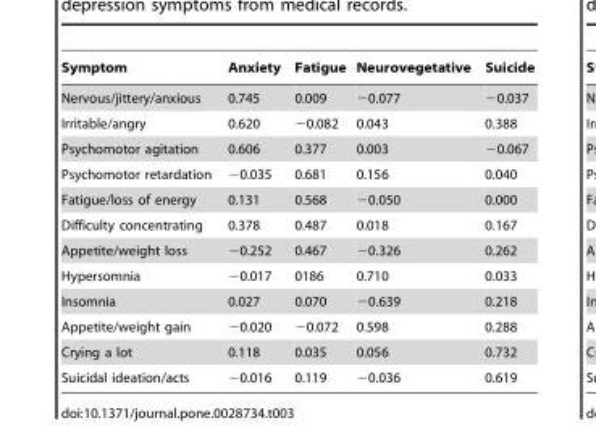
<table><thead><tr><td>Symptom</td><td>Anxiety</td><td>Fatigue</td><td>Neurovegetative</td><td>Suicide</td></tr></thead><tbody><tr><td>Nervous/jittery/anxious</td><td>0.745</td><td>0.009</td><td>−0.077</td><td>−0.037</td></tr><tr><td>Irritable/angry</td><td>0.620</td><td>−0.082</td><td>0.043</td><td>0.388</td></tr><tr><td>Psychomotor agitation</td><td>0.606</td><td>0.377</td><td>0.003</td><td>−0.067</td></tr><tr><td>Psychomotor retardation</td><td>−0.035</td><td>0.681</td><td>0.156</td><td>0.040</td></tr><tr><td>Fatigue/loss of energy</td><td>0.131</td><td>0.568</td><td>−0.050</td><td>0.000</td></tr><tr><td>Difficulty concentrating</td><td>0.378</td><td>0.487</td><td>0.018</td><td>0.167</td></tr><tr><td>Appetite/weight loss</td><td>−0.252</td><td>0.467</td><td>−0.326</td><td>0.262</td></tr><tr><td>Hypersomnia</td><td>−0.017</td><td>0186</td><td>0.710</td><td>0.033</td></tr><tr><td>Insomnia</td><td>0.027</td><td>0.070</td><td>−0.639</td><td>0.218</td></tr><tr><td>Appetite/weight gain</td><td>−0.020</td><td>−0.072</td><td>0.598</td><td>0.288</td></tr><tr><td>Crying a lot</td><td>0.118</td><td>0.035</td><td>0.056</td><td>0.732</td></tr><tr><td>Suicidal ideation/acts</td><td>−0.016</td><td>0.119</td><td>−0.036</td><td>0.619</td></tr></tbody></table>